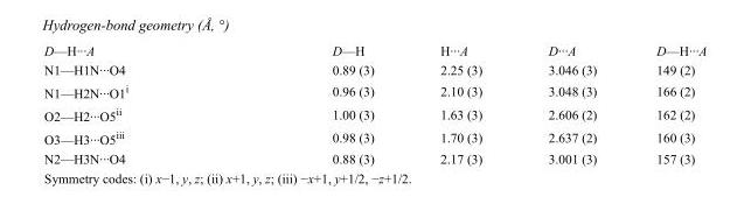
<table><tbody><tr><td>D—H···A</td><td>D—H</td><td>H···A</td><td>D···A</td><td>D—H···A</td></tr><tr><td>N1—H1N···O4</td><td>0.89 (3)</td><td>2.25 (3)</td><td>3.046 (3)</td><td>149 (2)</td></tr><tr><td>N1—H2N···O1<sup>i</sup></td><td>0.96 (3)</td><td>2.10 (3)</td><td>3.048 (3)</td><td>166 (2)</td></tr><tr><td>O2—H2···O5<sup>ii</sup></td><td>1.00 (3)</td><td>1.63 (3)</td><td>2.606 (2)</td><td>162 (2)</td></tr><tr><td>O3—H3···O5<sup>iii</sup></td><td>0.98 (3)</td><td>1.70 (3)</td><td>2.637 (2)</td><td>160 (3)</td></tr><tr><td>N2—H3N···O4</td><td>0.88 (3)</td><td>2.17 (3)</td><td>3.001 (3)</td><td>157 (3)</td></tr></tbody></table>